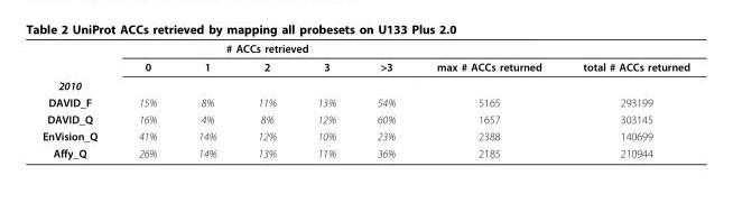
<table><thead><tr><td rowspan="2"></td><td colspan="5"># ACCs retrieved</td><td rowspan="2">max # ACCs returned</td><td rowspan="2">total # ACCs returned</td></tr><tr><td>0</td><td>1</td><td>2</td><td>3</td><td>&gt;3</td></tr></thead><tbody><tr><td colspan="8">2010</td></tr><tr><td>DAVID_F</td><td>15%</td><td>8%</td><td>11%</td><td>13%</td><td>54%</td><td>5165</td><td>293199</td></tr><tr><td>DAVID_Q</td><td>16%</td><td>4%</td><td>8%</td><td>12%</td><td>60%</td><td>1657</td><td>303145</td></tr><tr><td>EnVision_Q</td><td>41%</td><td>14%</td><td>12%</td><td>10%</td><td>23%</td><td>2388</td><td>140699</td></tr><tr><td>Affy_Q</td><td>26%</td><td>14%</td><td>13%</td><td>11%</td><td>36%</td><td>2185</td><td>210944</td></tr></tbody></table>